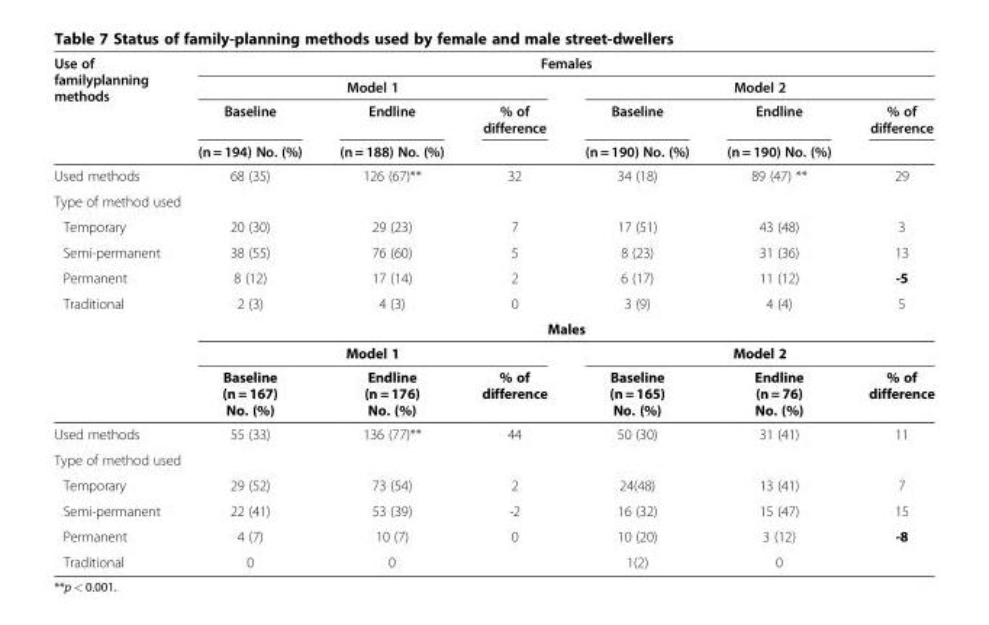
<table><thead><tr><td rowspan="4">Use of familyplanning methods</td><td colspan="6">Females</td></tr><tr><td colspan="3">Model 1</td><td colspan="3">Model 2</td></tr><tr><td rowspan="2">Baseline (n = 194) No. (%)</td><td rowspan="2">Endline (n = 188) No. (%)</td><td rowspan="2">% of difference</td><td rowspan="2">Baseline (n = 190) No. (%)</td><td rowspan="2">Endline (n = 190) No. (%)</td><td rowspan="2">% of difference</td></tr><tr></tr></thead><tbody><tr><td>Used methods</td><td>68 (35)</td><td>126 (67)**</td><td>32</td><td>34 (18)</td><td>89 (47) **</td><td>29</td></tr><tr><td colspan="7">Type of method used</td></tr><tr><td>Temporary</td><td>20 (30)</td><td>29 (23)</td><td>7</td><td>17 (51)</td><td>43 (48)</td><td>3</td></tr><tr><td>Semi-permanent</td><td>38 (55)</td><td>76 (60)</td><td>5</td><td>8 (23)</td><td>31 (36)</td><td>13</td></tr><tr><td>Permanent</td><td>8 (12)</td><td>17 (14)</td><td>2</td><td>6 (17)</td><td>11 (12)</td><td>-5</td></tr><tr><td rowspan="4">Traditional</td><td>2 (3)</td><td>4 (3)</td><td>0</td><td>3 (9)</td><td>4 (4)</td><td>5</td></tr><tr><td colspan="6">Males</td></tr><tr><td colspan="3">Model 1</td><td colspan="3">Model 2</td></tr><tr><td>Baseline (n = 167) No. (%)</td><td>Endline (n = 176) No. (%)</td><td>% of difference</td><td>Baseline (n = 165) No. (%)</td><td>Endline (n = 76) No. (%)</td><td>% of difference</td></tr><tr><td>Used methods</td><td>55 (33)</td><td>136 (77)**</td><td>44</td><td>50 (30)</td><td>31 (41)</td><td>11</td></tr><tr><td colspan="7">Type of method used</td></tr><tr><td>Temporary</td><td>29 (52)</td><td>73 (54)</td><td>2</td><td>24(48)</td><td>13 (41)</td><td>7</td></tr><tr><td>Semi-permanent</td><td>22 (41)</td><td>53 (39)</td><td>-2</td><td>16 (32)</td><td>15 (47)</td><td>15</td></tr><tr><td>Permanent</td><td>4 (7)</td><td>10 (7)</td><td>0</td><td>10 (20)</td><td>3 (12)</td><td>-8</td></tr><tr><td>Traditional</td><td>0</td><td>0</td><td></td><td>1(2)</td><td>0</td><td></td></tr></tbody></table>